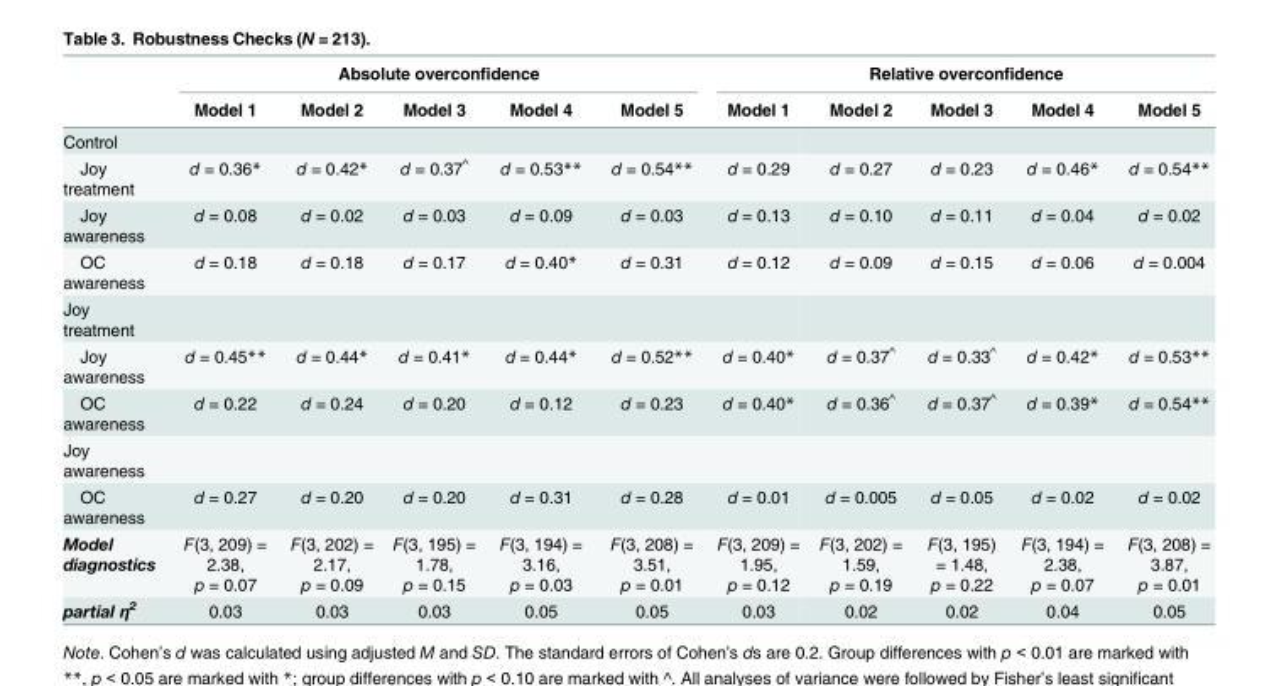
<table><thead><tr><td rowspan="2"></td><td colspan="5">Absolute overconfidence</td><td colspan="5">Relative overconfidence</td></tr><tr><td>Model 1</td><td>Model 2</td><td>Model 3</td><td>Model 4</td><td>Model 5</td><td>Model 1</td><td>Model 2</td><td>Model 3</td><td>Model 4</td><td>Model 5</td></tr></thead><tbody><tr><td colspan="11">Control</td></tr><tr><td>Joy treatment</td><td>d = 0.36*</td><td>d = 0.42*</td><td>d = 0.37<sup>^</sup></td><td>d = 0.53**</td><td>d = 0.54**</td><td>d = 0.29</td><td>d = 0.27</td><td>d = 0.23</td><td>d = 0.46*</td><td>d = 0.54**</td></tr><tr><td>Joy awareness</td><td>d = 0.08</td><td>d = 0.02</td><td>d = 0.03</td><td>d = 0.09</td><td>d = 0.03</td><td>d = 0.13</td><td>d = 0.10</td><td>d = 0.11</td><td>d = 0.04</td><td>d = 0.02</td></tr><tr><td>OC awareness</td><td>d = 0.18</td><td>d = 0.18</td><td>d = 0.17</td><td>d = 0.40*</td><td>d = 0.31</td><td>d = 0.12</td><td>d = 0.09</td><td>d = 0.15</td><td>d = 0.06</td><td>d = 0.004</td></tr><tr><td colspan="11">Joy treatment</td></tr><tr><td>Joy awareness</td><td>d = 0.45**</td><td>d = 0.44*</td><td>d = 0.41*</td><td>d = 0.44*</td><td>d = 0.52**</td><td>d = 0.40*</td><td>d = 0.37<sup>^</sup></td><td>d = 0.33<sup>^</sup></td><td>d = 0.42*</td><td>d = 0.53**</td></tr><tr><td>OC awareness</td><td>d = 0.22</td><td>d = 0.24</td><td>d = 0.20</td><td>d = 0.12</td><td>d = 0.23</td><td>d = 0.40*</td><td>d = 0.36<sup>^</sup></td><td>d = 0.37<sup>^</sup></td><td>d = 0.39*</td><td>d = 0.54**</td></tr><tr><td colspan="11">Joy awareness</td></tr><tr><td>OC awareness</td><td>d = 0.27</td><td>d = 0.20</td><td>d = 0.20</td><td>d = 0.31</td><td>d = 0.28</td><td>d = 0.01</td><td>d = 0.005</td><td>d = 0.05</td><td>d = 0.02</td><td>d = 0.02</td></tr><tr><td>Model diagnostics</td><td>F(3, 209) = 2.38, p = 0.07</td><td>F(3, 202) = 2.17, p = 0.09</td><td>F(3, 195) = 1.78, p = 0.15</td><td>F(3, 194) = 3.16, p = 0.03</td><td>F(3, 208) = 3.51, p = 0.01</td><td>F(3, 209) = 1.95, p = 0.12</td><td>F(3, 202) = 1.59, p = 0.19</td><td>F(3, 195) = 1.48, p = 0.22</td><td>F(3, 194) = 2.38, p = 0.07</td><td>F(3, 208) = 3.87, p = 0.01</td></tr><tr><td>partial η<sup>2</sup></td><td>0.03</td><td>0.03</td><td>0.03</td><td>0.05</td><td>0.05</td><td>0.03</td><td>0.02</td><td>0.02</td><td>0.04</td><td>0.05</td></tr></tbody></table>